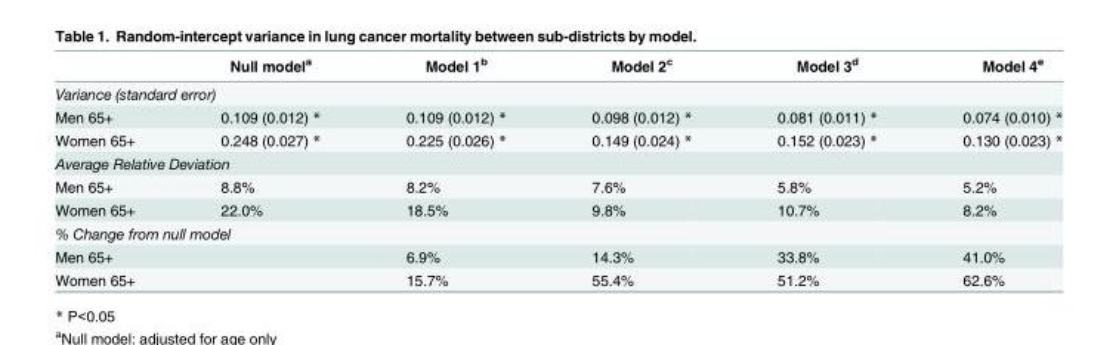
<table><thead><tr><td></td><td>Null model<sup>a</sup></td><td>Model 1<sup>b</sup></td><td>Model 2<sup>c</sup></td><td>Model 3<sup>d</sup></td><td>Model 4<sup>e</sup></td></tr></thead><tbody><tr><td colspan="6">Variance (standard error)</td></tr><tr><td>Men 65+</td><td>0.109 (0.012) *</td><td>0.109 (0.012) *</td><td>0.098 (0.012) *</td><td>0.081 (0.011) *</td><td>0.074 (0.010) *</td></tr><tr><td>Women 65+</td><td>0.248 (0.027) *</td><td>0.225 (0.026) *</td><td>0.149 (0.024) *</td><td>0.152 (0.023) *</td><td>0.130 (0.023) *</td></tr><tr><td colspan="6">Average Relative Deviation</td></tr><tr><td>Men 65+</td><td>8.8%</td><td>8.2%</td><td>7.6%</td><td>5.8%</td><td>5.2%</td></tr><tr><td>Women 65+</td><td>22.0%</td><td>18.5%</td><td>9.8%</td><td>10.7%</td><td>8.2%</td></tr><tr><td colspan="6">% Change from null model</td></tr><tr><td>Men 65+</td><td></td><td>6.9%</td><td>14.3%</td><td>33.8%</td><td>41.0%</td></tr><tr><td>Women 65+</td><td></td><td>15.7%</td><td>55.4%</td><td>51.2%</td><td>62.6%</td></tr></tbody></table>